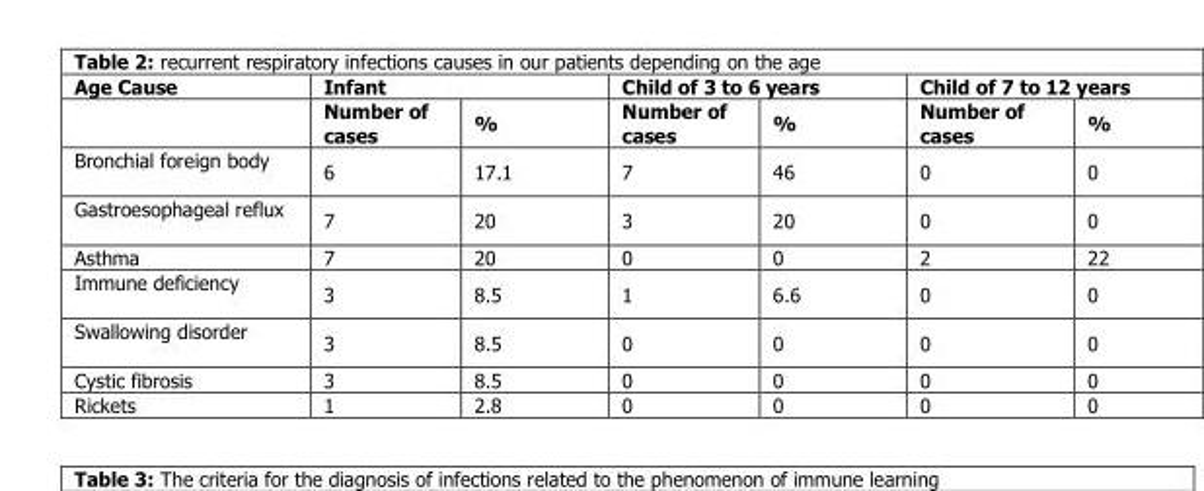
<table><thead><tr><td rowspan="2">Age Cause</td><td colspan="2">Infant</td><td colspan="2">Child of 3 to 6 years</td><td colspan="2">Child of 7 to 12 years</td></tr><tr><td>Number of cases</td><td>%</td><td>Number of cases</td><td>%</td><td>Number of cases</td><td>%</td></tr></thead><tbody><tr><td>Bronchial foreign body</td><td>6</td><td>17.1</td><td>7</td><td>46</td><td>0</td><td>0</td></tr><tr><td>Gastroesophageal reflux</td><td>7</td><td>20</td><td>3</td><td>20</td><td>0</td><td>0</td></tr><tr><td>Asthma</td><td>7</td><td>20</td><td>0</td><td>0</td><td>2</td><td>22</td></tr><tr><td>Immune deficiency</td><td>3</td><td>8.5</td><td>1</td><td>6.6</td><td>0</td><td>0</td></tr><tr><td>Swallowing disorder</td><td>3</td><td>8.5</td><td>0</td><td>0</td><td>0</td><td>0</td></tr><tr><td>Cystic fibrosis</td><td>3</td><td>8.5</td><td>0</td><td>0</td><td>0</td><td>0</td></tr><tr><td>Rickets</td><td>1</td><td>2.8</td><td>0</td><td>0</td><td>0</td><td>0</td></tr></tbody></table>